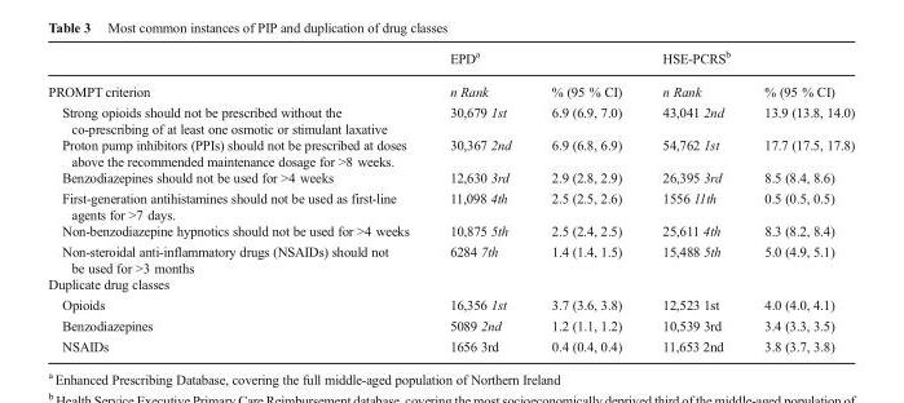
<table><thead><tr><td rowspan="2">PROMPT criterion</td><td colspan="2">EPD<sup>a</sup></td><td colspan="2">HSE-PCRS<sup>b</sup></td></tr><tr><td>n Rank</td><td>% (95 % CI)</td><td>n Rank</td><td>% (95 % CI)</td></tr></thead><tbody><tr><td>Strong opioids should not be prescribed without the co-prescribing of at least one osmotic or stimulant laxative</td><td>30,679 1st</td><td>6.9 (6.9, 7.0)</td><td>43,041 2nd</td><td>13.9 (13.8, 14.0)</td></tr><tr><td>Proton pump inhibitors (PPIs) should not be prescribed at doses above the recommended maintenance dosage for &gt;8 weeks.</td><td>30,367 2nd</td><td>6.9 (6.8, 6.9)</td><td>54,762 1st</td><td>17.7 (17.5, 17.8)</td></tr><tr><td>Benzodiazepines should not be used for &gt;4 weeks</td><td>12,630 3rd</td><td>2.9 (2.8, 2.9)</td><td>26,395 3rd</td><td>8.5 (8.4, 8.6)</td></tr><tr><td>First-generation antihistamines should not be used as first-line agents for &gt;7 days.</td><td>11,098 4th</td><td>2.5 (2.5, 2.6)</td><td>1556 11th</td><td>0.5 (0.5, 0.5)</td></tr><tr><td>Non-benzodiazepine hypnotics should not be used for &gt;4 weeks</td><td>10,875 5th</td><td>2.5 (2.4, 2.5)</td><td>25,611 4th</td><td>8.3 (8.2, 8.4)</td></tr><tr><td>Non-steroidal anti-inflammatory drugs (NSAIDs) should not be used for &gt;3 months</td><td>6284 7th</td><td>1.4 (1.4, 1.5)</td><td>15,488 5th</td><td>5.0 (4.9, 5.1)</td></tr><tr><td colspan="5">Duplicate drug classes</td></tr><tr><td>Opioids</td><td>16,356 1st</td><td>3.7 (3.6, 3.8)</td><td>12,523 1st</td><td>4.0 (4.0, 4.1)</td></tr><tr><td>Benzodiazepines</td><td>5089 2nd</td><td>1.2 (1.1, 1.2)</td><td>10,539 3rd</td><td>3.4 (3.3, 3.5)</td></tr><tr><td>NSAIDs</td><td>1656 3rd</td><td>0.4 (0.4, 0.4)</td><td>11,653 2nd</td><td>3.8 (3.7, 3.8)</td></tr></tbody></table>